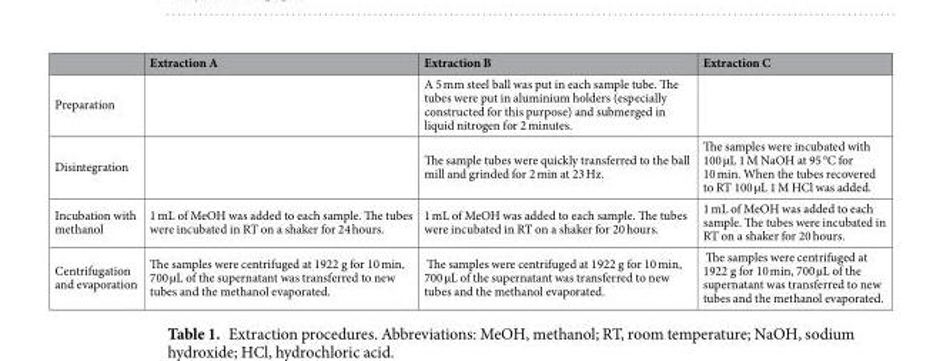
<table><thead><tr><td></td><td>Extraction A</td><td>Extraction B</td><td>Extraction C</td></tr></thead><tbody><tr><td>Preparation</td><td></td><td>A 5 mm steel ball was put in each sample tube. The tubes were put in aluminium holders (especially constructed for this purpose) and submerged in liquid nitrogen for 2 minutes.</td><td></td></tr><tr><td>Disintegration</td><td></td><td>The sample tubes were quickly transferred to the ball mill and grinded for 2 min at 23 Hz.</td><td>The samples were incubated with 100 µL 1 M NaOH at 95 °C for 10 min. When the tubes recovered to RT 100 µL 1 M HCl was added.</td></tr><tr><td>Incubation with methanol</td><td>1 mL of MeOH was added to each sample. The tubes were incubated in RT on a shaker for 24 hours.</td><td>1 mL of MeOH was added to each sample. The tubes were incubated in RT on a shaker for 20 hours.</td><td>1 mL of MeOH was added to each sample. The tubes were incubated in RT on a shaker for 20 hours.</td></tr><tr><td>Centrifugation and evaporation</td><td>The samples were centrifuged at 1922 g for 10 min, 700 µL of the supernatant was transferred to new tubes and the methanol evaporated.</td><td>The samples were centrifuged at 1922 g for 10 min, 700 µL of the supernatant was transferred to new tubes and the methanol evaporated.</td><td>The samples were centrifuged at 1922 g for 10 min, 700 µL of the supernatant was transferred to new tubes and the methanol evaporated.</td></tr></tbody></table>